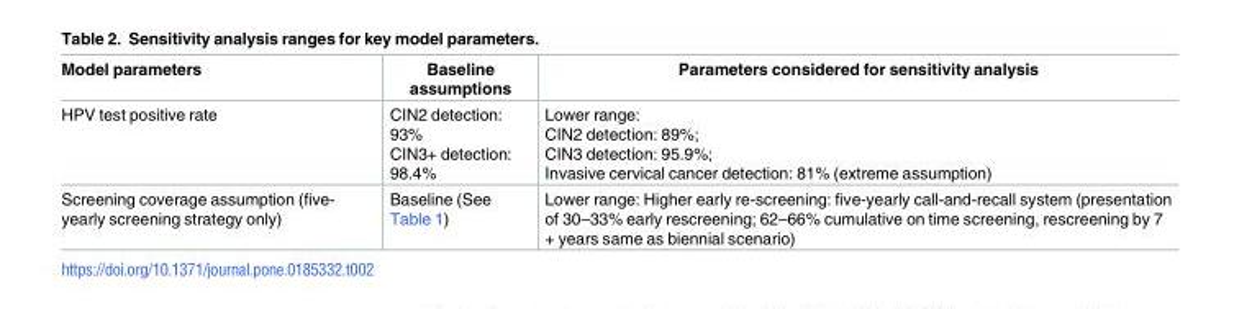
<table><thead><tr><td>Model parameters</td><td>Baseline assumptions</td><td>Parameters considered for sensitivity analysis</td></tr></thead><tbody><tr><td>HPV test positive rate</td><td>CIN2 detection: 93% CIN3+ detection: 98.4%</td><td>Lower range: CIN2 detection: 89%; CIN3 detection: 95.9%; Invasive cervical cancer detection: 81% (extreme assumption)</td></tr><tr><td>Screening coverage assumption (five- yearly screening strategy only)</td><td>Baseline (See Table 1)</td><td>Lower range: Higher early re-screening: five-yearly call-and-recall system (presentation of 30–33% early rescreening; 62–66% cumulative on time screening, rescreening by 7 + years same as biennial scenario)</td></tr></tbody></table>